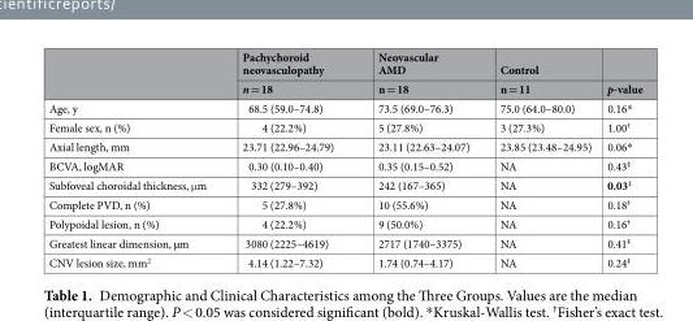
<table><thead><tr><td rowspan="2"></td><td rowspan="2">Pachychoroid neovasculopathy n = 18</td><td rowspan="2">Neovascular AMD n = 18</td><td rowspan="2">Control n = 11</td><td rowspan="2">p-value</td></tr><tr></tr></thead><tbody><tr><td>Age, y</td><td>68.5 (59.0–74.8)</td><td>73.5 (69.0–76.3)</td><td>75.0 (64.0–80.0)</td><td>0.16*</td></tr><tr><td>Female sex, n (%)</td><td>4 (22.2%)</td><td>5 (27.8%)</td><td>3 (27.3%)</td><td>1.00<sup>†</sup></td></tr><tr><td>Axial length, mm</td><td>23.71 (22.96–24.79)</td><td>23.11 (22.63–24.07)</td><td>23.85 (23.48–24.95)</td><td>0.06*</td></tr><tr><td>BCVA, logMAR</td><td>0.30 (0.10–0.40)</td><td>0.35 (0.15–0.52)</td><td>NA</td><td>0.43<sup>‡</sup></td></tr><tr><td>Subfoveal choroidal thickness, μm</td><td>332 (279–392)</td><td>242 (167–365)</td><td>NA</td><td>0.03<sup>‡</sup></td></tr><tr><td>Complete PVD, n (%)</td><td>5 (27.8%)</td><td>10 (55.6%)</td><td>NA</td><td>0.18<sup>†</sup></td></tr><tr><td>Polypoidal lesion, n (%)</td><td>4 (22.2%)</td><td>9 (50.0%)</td><td>NA</td><td>0.16<sup>†</sup></td></tr><tr><td>Greatest linear dimension, µm</td><td>3080 (2225–4619)</td><td>2717 (1740–3375)</td><td>NA</td><td>0.41<sup>‡</sup></td></tr><tr><td>CNV lesion size, mm<sup>2</sup></td><td>4.14 (1.22–7.32)</td><td>1.74 (0.74–4.17)</td><td>NA</td><td>0.24<sup>‡</sup></td></tr></tbody></table>